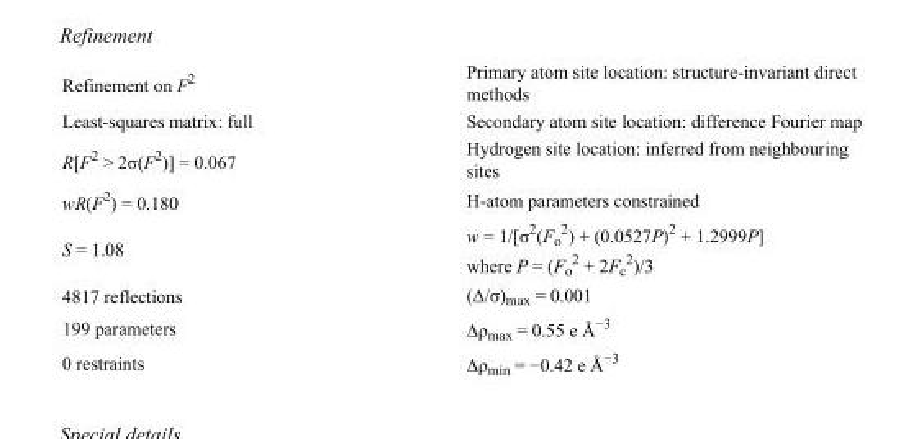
<table><tbody><tr><td>Refinement on F<sup>2</sup></td><td>Primary atom site location: structure-invariant direct methods</td></tr><tr><td>Least-squares matrix: full</td><td>Secondary atom site location: difference Fourier map</td></tr><tr><td>R[F<sup>2</sup> &gt; 2σ(F<sup>2</sup>)] = 0.067</td><td>Hydrogen site location: inferred from neighbouring sites</td></tr><tr><td>wR(F<sup>2</sup>) = 0.180</td><td>H-atom parameters constrained</td></tr><tr><td>S = 1.08</td><td>w = 1/[σ<sup>2</sup>(F<sub>o</sub> <sup>2</sup>) + (0.0527P)<sup>2</sup> + 1.2999P] where P = (F<sub>o</sub> <sup>2</sup> + 2F<sub>c</sub> <sup>2</sup>)/3</td></tr><tr><td>4817 reflections</td><td>(Δ/σ)<sub>max</sub> = 0.001</td></tr><tr><td>199 parameters</td><td>Δρ<sub>max</sub> = 0.55 e Å<sup>−3</sup></td></tr><tr><td>0 restraints</td><td>Δρ<sub>min</sub> = −0.42 e Å<sup>−3</sup></td></tr></tbody></table>